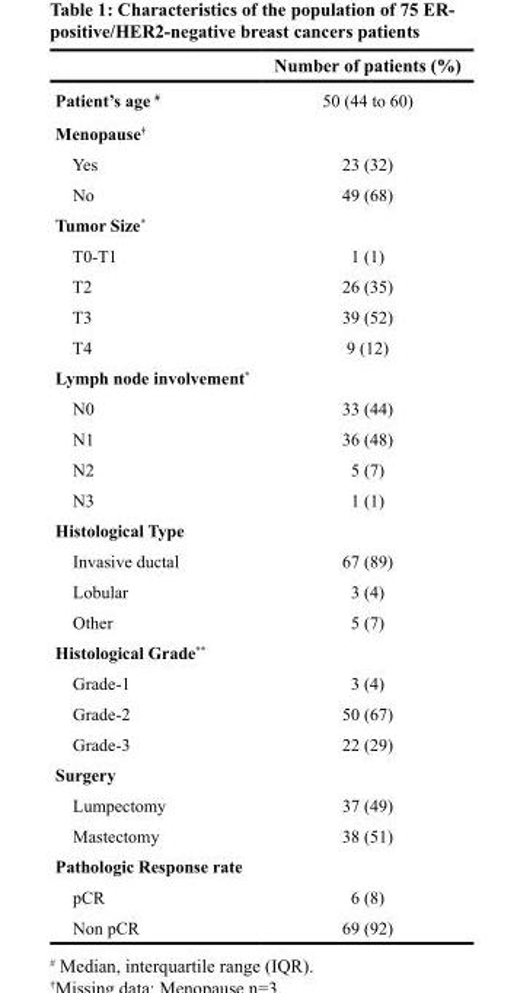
<table><thead><tr><td></td><td>Number of patients (%)</td></tr></thead><tbody><tr><td>Patient’s age <sup>#</sup></td><td>50 (44 to 60)</td></tr><tr><td colspan="2">Menopause<sup>†</sup></td></tr><tr><td>Yes</td><td>23 (32)</td></tr><tr><td>No</td><td>49 (68)</td></tr><tr><td colspan="2">Tumor Size*</td></tr><tr><td>T0-T1</td><td>1 (1)</td></tr><tr><td>T2</td><td>26 (35)</td></tr><tr><td>T3</td><td>39 (52)</td></tr><tr><td>T4</td><td>9 (12)</td></tr><tr><td colspan="2">Lymph node involvement*</td></tr><tr><td>N0</td><td>33 (44)</td></tr><tr><td>N1</td><td>36 (48)</td></tr><tr><td>N2</td><td>5 (7)</td></tr><tr><td>N3</td><td>1 (1)</td></tr><tr><td colspan="2">Histological Type</td></tr><tr><td>Invasive ductal</td><td>67 (89)</td></tr><tr><td>Lobular</td><td>3 (4)</td></tr><tr><td>Other</td><td>5 (7)</td></tr><tr><td colspan="2">Histological Grade**</td></tr><tr><td>Grade-1</td><td>3 (4)</td></tr><tr><td>Grade-2</td><td>50 (67)</td></tr><tr><td>Grade-3</td><td>22 (29)</td></tr><tr><td colspan="2">Surgery</td></tr><tr><td>Lumpectomy</td><td>37 (49)</td></tr><tr><td>Mastectomy</td><td>38 (51)</td></tr><tr><td colspan="2">Pathologic Response rate</td></tr><tr><td>pCR</td><td>6 (8)</td></tr><tr><td>Non pCR</td><td>69 (92)</td></tr></tbody></table>